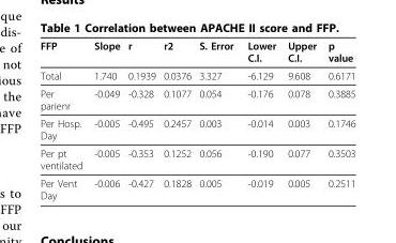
<table><thead><tr><td>FFP</td><td>Slope</td><td>r</td><td>r2</td><td>S. Error</td><td>Lower C.I.</td><td>Upper C.I.</td><td>p value</td></tr></thead><tbody><tr><td>Total</td><td>1.740</td><td>0.1939</td><td>0.0376</td><td>3.327</td><td>-6.129</td><td>9.608</td><td>0.6171</td></tr><tr><td>Per parienr</td><td>-0.049</td><td>-0.328</td><td>0.1077</td><td>0.054</td><td>-0.176</td><td>0.078</td><td>0.3885</td></tr><tr><td>Per Hosp. Day</td><td>-0.005</td><td>-0.495</td><td>0.2457</td><td>0.003</td><td>-0.014</td><td>0.003</td><td>0.1746</td></tr><tr><td>Per pt ventilated</td><td>-0.005</td><td>-0.353</td><td>0.1252</td><td>0.056</td><td>-0.190</td><td>0.077</td><td>0.3503</td></tr><tr><td>Per Vent Day</td><td>-0.006</td><td>-0.427</td><td>0.1828</td><td>0.005</td><td>-0.019</td><td>0.005</td><td>0.2511</td></tr></tbody></table>